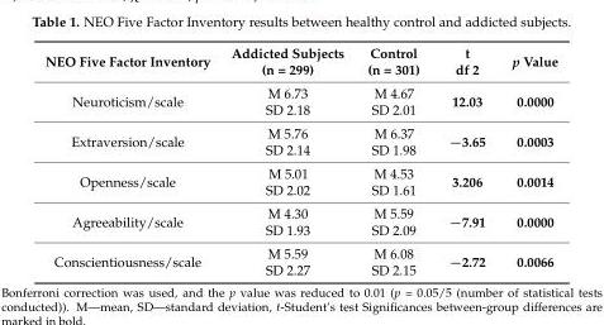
<table><thead><tr><td>NEO Five Factor Inventory</td><td>Addicted Subjects (n = 299)</td><td>Control (n = 301)</td><td>t df 2</td><td>p Value</td></tr></thead><tbody><tr><td>Neuroticism/scale</td><td>M 6.73 SD 2.18</td><td>M 4.67 SD 2.01</td><td>12.03</td><td>0.0000</td></tr><tr><td>Extraversion/scale</td><td>M 5.76 SD 2.14</td><td>M 6.37 SD 1.98</td><td>−3.65</td><td>0.0003</td></tr><tr><td>Openness/scale</td><td>M 5.01 SD 2.02</td><td>M 4.53 SD 1.61</td><td>3.206</td><td>0.0014</td></tr><tr><td>Agreeability/scale</td><td>M 4.30 SD 1.93</td><td>M 5.59 SD 2.09</td><td>−7.91</td><td>0.0000</td></tr><tr><td>Conscientiousness/scale</td><td>M 5.59 SD 2.27</td><td>M 6.08 SD 2.15</td><td>−2.72</td><td>0.0066</td></tr></tbody></table>